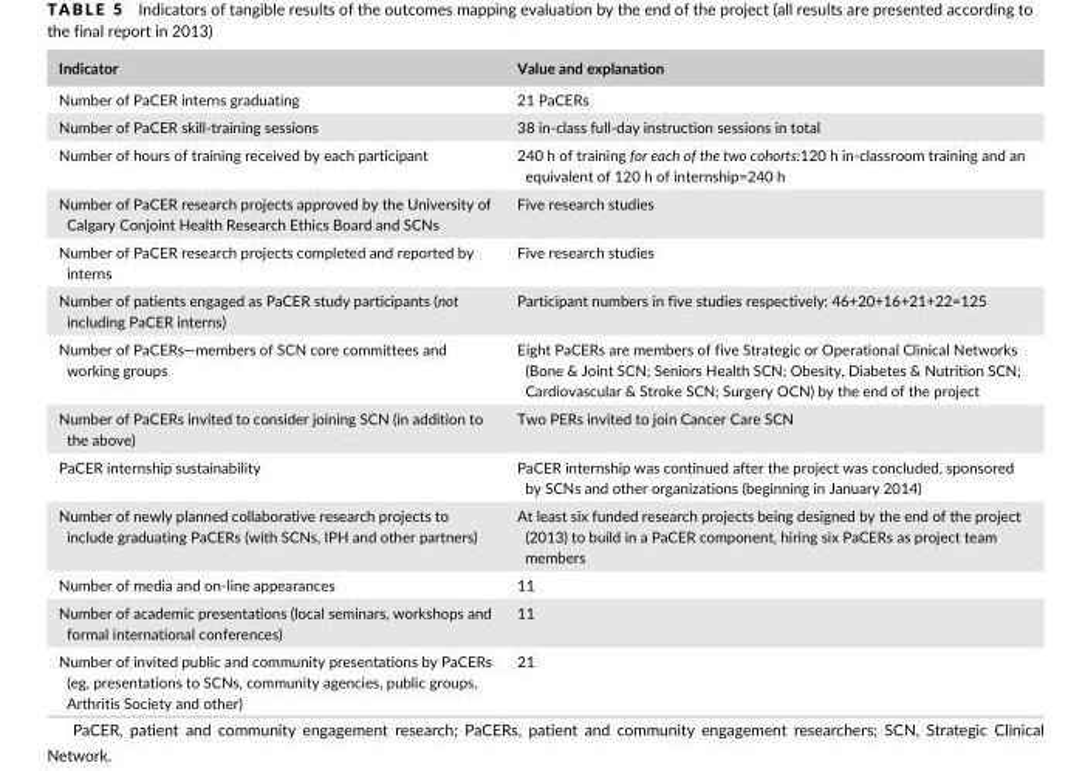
<table><thead><tr><td>Indicator</td><td>Value and explanation</td></tr></thead><tbody><tr><td>Number of PaCER interns graduating</td><td>21 PaCERs</td></tr><tr><td>Number of PaCER skill- training sessions</td><td>38 in- class full- day instruction sessions in total</td></tr><tr><td>Number of hours of training received by each participant</td><td>240 h of training for each of the two cohorts:120 h in- classroom training and an equivalent of 120 h of internship=240 h</td></tr><tr><td>Number of PaCER research projects approved by the University of Calgary Conjoint Health Research Ethics Board and SCNs</td><td>Five research studies</td></tr><tr><td>Number of PaCER research projects completed and reported by interns</td><td>Five research studies</td></tr><tr><td>Number of patients engaged as PaCER study participants (not including PaCER interns)</td><td>Participant numbers in five studies respectively: 46+20+16+21+22=125</td></tr><tr><td>Number of PaCERs—members of SCN core committees and working groups</td><td>Eight PaCERs are members of five Strategic or Operational Clinical Networks (Bone &amp; Joint SCN; Seniors Health SCN; Obesity, Diabetes &amp; Nutrition SCN; Cardiovascular &amp; Stroke SCN; Surgery OCN) by the end of the project</td></tr><tr><td>Number of PaCERs invited to consider joining SCN (in addition to the above)</td><td>Two PERs invited to join Cancer Care SCN</td></tr><tr><td>PaCER internship sustainability</td><td>PaCER internship was continued after the project was concluded, sponsored by SCNs and other organizations (beginning in January 2014)</td></tr><tr><td>Number of newly planned collaborative research projects to include graduating PaCERs (with SCNs, IPH and other partners)</td><td>At least six funded research projects being designed by the end of the project (2013) to build in a PaCER component, hiring six PaCERs as project team members</td></tr><tr><td>Number of media and on- line appearances</td><td>11</td></tr><tr><td>Number of academic presentations (local seminars, workshops and formal international conferences)</td><td>11</td></tr><tr><td>Number of invited public and community presentations by PaCERs (eg, presentations to SCNs, community agencies, public groups, Arthritis Society and other)</td><td>21</td></tr></tbody></table>